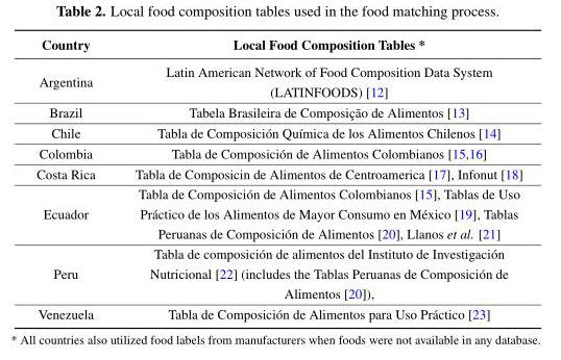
<table><thead><tr><td>Country</td><td>Local Food Composition Tables *</td></tr></thead><tbody><tr><td>Argentina</td><td>Latin American Network of Food Composition Data System (LATINFOODS) [12]</td></tr><tr><td>Brazil</td><td>Tabela Brasileira de Composição de Alimentos [13]</td></tr><tr><td>Chile</td><td>Tabla de Composición Química de los Alimentos Chilenos [14]</td></tr><tr><td>Colombia</td><td>Tabla de Composición de Alimentos Colombianos [15,16]</td></tr><tr><td>Costa Rica</td><td>Tabla de Composicin de Alimentos de Centroamerica [17], Infonut [18]</td></tr><tr><td>Ecuador</td><td>Tabla de Composición de Alimentos Colombianos [15], Tablas de Uso Práctico de los Alimentos de Mayor Consumo en México [19], Tablas Peruanas de Composición de Alimentos [20], Llanos et al. [21]</td></tr><tr><td>Peru</td><td>Tabla de composición de alimentos del Instituto de Investigación Nutricional [22] (includes the Tablas Peruanas de Composición de Alimentos [20]),</td></tr><tr><td>Venezuela</td><td>Tabla de Composición de Alimentos para Uso Práctico [23]</td></tr></tbody></table>